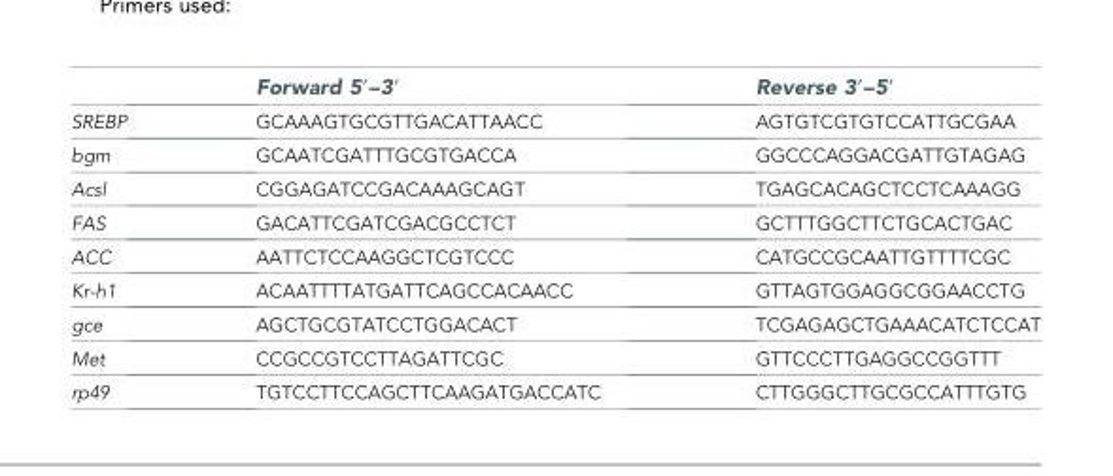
<table><thead><tr><td></td><td>Forward 5′–3′</td><td>Reverse 3′–5′</td></tr></thead><tbody><tr><td>SREBP</td><td>GCAAAGTGCGTTGACATTAACC</td><td>AGTGTCGTGTCCATTGCGAA</td></tr><tr><td>bgm</td><td>GCAATCGATTTGCGTGACCA</td><td>GGCCCAGGACGATTGTAGAG</td></tr><tr><td>Acsl</td><td>CGGAGATCCGACAAAGCAGT</td><td>TGAGCACAGCTCCTCAAAGG</td></tr><tr><td>FAS</td><td>GACATTCGATCGACGCCTCT</td><td>GCTTTGGCTTCTGCACTGAC</td></tr><tr><td>ACC</td><td>AATTCTCCAAGGCTCGTCCC</td><td>CATGCCGCAATTGTTTTCGC</td></tr><tr><td>Kr-h1</td><td>ACAATTTTATGATTCAGCCACAACC</td><td>GTTAGTGGAGGCGGAACCTG</td></tr><tr><td>gce</td><td>AGCTGCGTATCCTGGACACT</td><td>TCGAGAGCTGAAACATCTCCAT</td></tr><tr><td>Met</td><td>CCGCCGTCCTTAGATTCGC</td><td>GTTCCCTTGAGGCCGGTTT</td></tr><tr><td>rp49</td><td>TGTCCTTCCAGCTTCAAGATGACCATC</td><td>CTTGGGCTTGCGCCATTTGTG</td></tr></tbody></table>